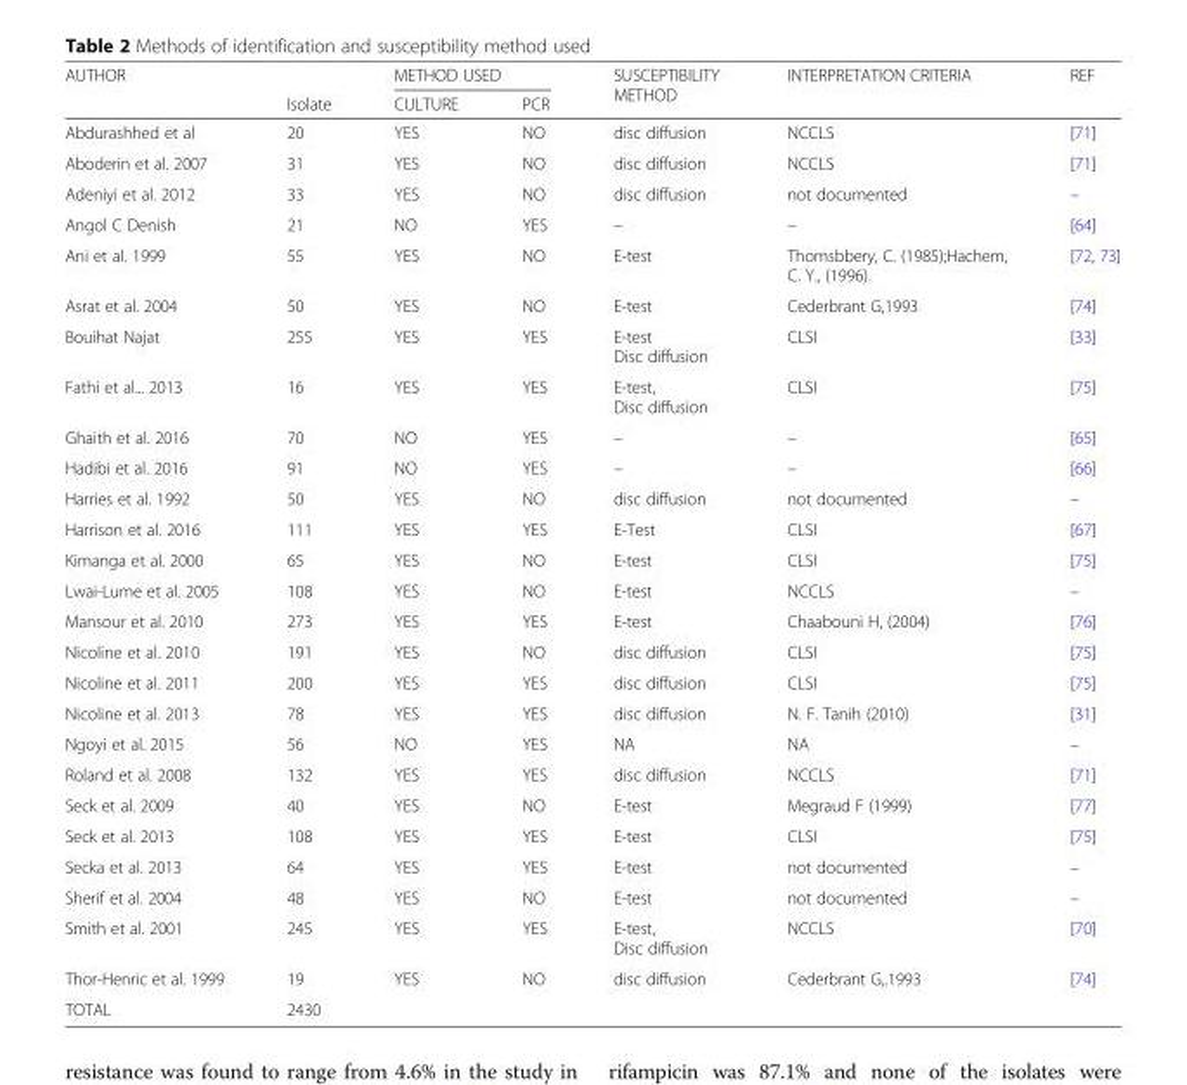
<table><thead><tr><td rowspan="2">AUTHOR</td><td rowspan="2">Isolate</td><td colspan="2">METHOD USED</td><td rowspan="2">SUSCEPTIBILITY METHOD</td><td rowspan="2">INTERPRETATION CRITERIA</td><td rowspan="2">REF</td></tr><tr><td>CULTURE</td><td>PCR</td></tr></thead><tbody><tr><td>Abdurashhed et al</td><td>20</td><td>YES</td><td>NO</td><td>disc diffusion</td><td>NCCLS</td><td>[71]</td></tr><tr><td>Aboderin et al. 2007</td><td>31</td><td>YES</td><td>NO</td><td>disc diffusion</td><td>NCCLS</td><td>[71]</td></tr><tr><td>Adeniyi et al. 2012</td><td>33</td><td>YES</td><td>NO</td><td>disc diffusion</td><td>not documented</td><td>–</td></tr><tr><td>Angol C Denish</td><td>21</td><td>NO</td><td>YES</td><td>–</td><td>–</td><td>[64]</td></tr><tr><td>Ani et al. 1999</td><td>55</td><td>YES</td><td>NO</td><td>E-test</td><td>Thomsbbery, C. (1985);Hachem, C. Y., (1996).</td><td>[72, 73]</td></tr><tr><td>Asrat et al. 2004</td><td>50</td><td>YES</td><td>NO</td><td>E-test</td><td>Cederbrant G,1993</td><td>[74]</td></tr><tr><td>Bouihat Najat</td><td>255</td><td>YES</td><td>YES</td><td>E-test Disc diffusion</td><td>CLSI</td><td>[33]</td></tr><tr><td>Fathi et al... 2013</td><td>16</td><td>YES</td><td>YES</td><td>E-test, Disc diffusion</td><td>CLSI</td><td>[75]</td></tr><tr><td>Ghaith et al. 2016</td><td>70</td><td>NO</td><td>YES</td><td>–</td><td>–</td><td>[65]</td></tr><tr><td>Hadibi et al. 2016</td><td>91</td><td>NO</td><td>YES</td><td>–</td><td>–</td><td>[66]</td></tr><tr><td>Harries et al. 1992</td><td>50</td><td>YES</td><td>NO</td><td>disc diffusion</td><td>not documented</td><td>–</td></tr><tr><td>Harrison et al. 2016</td><td>111</td><td>YES</td><td>YES</td><td>E-Test</td><td>CLSI</td><td>[67]</td></tr><tr><td>Kimanga et al. 2000</td><td>65</td><td>YES</td><td>NO</td><td>E-test</td><td>CLSI</td><td>[75]</td></tr><tr><td>Lwai-Lume et al. 2005</td><td>108</td><td>YES</td><td>NO</td><td>E-test</td><td>NCCLS</td><td>–</td></tr><tr><td>Mansour et al. 2010</td><td>273</td><td>YES</td><td>YES</td><td>E-test</td><td>Chaabouni H, (2004)</td><td>[76]</td></tr><tr><td>Nicoline et al. 2010</td><td>191</td><td>YES</td><td>NO</td><td>disc diffusion</td><td>CLSI</td><td>[75]</td></tr><tr><td>Nicoline et al. 2011</td><td>200</td><td>YES</td><td>YES</td><td>disc diffusion</td><td>CLSI</td><td>[75]</td></tr><tr><td>Nicoline et al. 2013</td><td>78</td><td>YES</td><td>YES</td><td>disc diffusion</td><td>N. F. Tanih (2010)</td><td>[31]</td></tr><tr><td>Ngoyi et al. 2015</td><td>56</td><td>NO</td><td>YES</td><td>NA</td><td>NA</td><td>–</td></tr><tr><td>Roland et al. 2008</td><td>132</td><td>YES</td><td>YES</td><td>disc diffusion</td><td>NCCLS</td><td>[71]</td></tr><tr><td>Seck et al. 2009</td><td>40</td><td>YES</td><td>NO</td><td>E-test</td><td>Megraud F (1999)</td><td>[77]</td></tr><tr><td>Seck et al. 2013</td><td>108</td><td>YES</td><td>YES</td><td>E-test</td><td>CLSI</td><td>[75]</td></tr><tr><td>Secka et al. 2013</td><td>64</td><td>YES</td><td>YES</td><td>E-test</td><td>not documented</td><td>–</td></tr><tr><td>Sherif et al. 2004</td><td>48</td><td>YES</td><td>NO</td><td>E-test</td><td>not documented</td><td>–</td></tr><tr><td>Smith et al. 2001</td><td>245</td><td>YES</td><td>YES</td><td>E-test, Disc diffusion</td><td>NCCLS</td><td>[70]</td></tr><tr><td>Thor-Henric et al. 1999</td><td>19</td><td>YES</td><td>NO</td><td>disc diffusion</td><td>Cederbrant G,.1993</td><td>[74]</td></tr><tr><td>TOTAL</td><td>2430</td><td></td><td></td><td></td><td></td><td></td></tr></tbody></table>